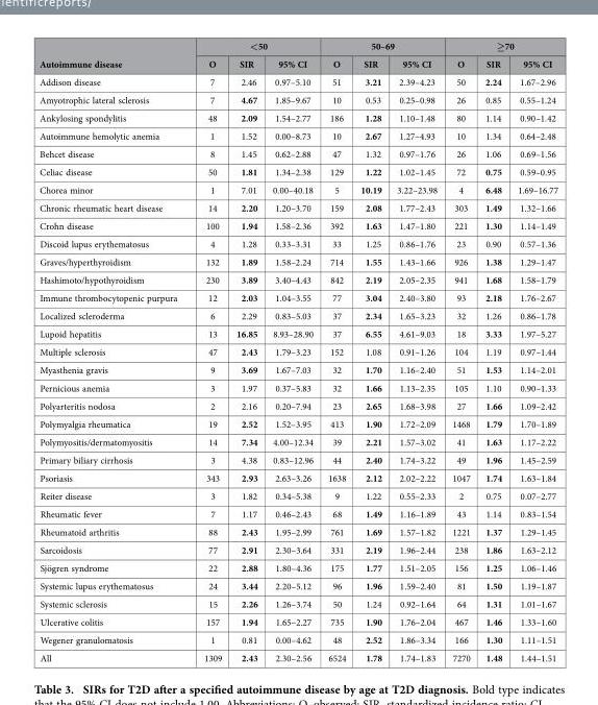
<table><thead><tr><td rowspan="2">Autoimmune disease</td><td colspan="3">&lt;50</td><td colspan="3">50–69</td><td colspan="3">≥70</td></tr><tr><td>O</td><td>SIR</td><td>95% CI</td><td>O</td><td>SIR</td><td>95% CI</td><td>O</td><td>SIR</td><td>95% CI</td></tr></thead><tbody><tr><td>Addison disease</td><td>7</td><td>2.46</td><td>0.97–5.10</td><td>51</td><td>3.21</td><td>2.39–4.23</td><td>50</td><td>2.24</td><td>1.67–2.96</td></tr><tr><td>Amyotrophic lateral sclerosis</td><td>7</td><td>4.67</td><td>1.85–9.67</td><td>10</td><td>0.53</td><td>0.25–0.98</td><td>26</td><td>0.85</td><td>0.55–1.24</td></tr><tr><td>Ankylosing spondylitis</td><td>48</td><td>2.09</td><td>1.54–2.77</td><td>186</td><td>1.28</td><td>1.10–1.48</td><td>80</td><td>1.14</td><td>0.90–1.42</td></tr><tr><td>Autoimmune hemolytic anemia</td><td>1</td><td>1.52</td><td>0.00–8.73</td><td>10</td><td>2.67</td><td>1.27–4.93</td><td>10</td><td>1.34</td><td>0.64–2.48</td></tr><tr><td>Behcet disease</td><td>8</td><td>1.45</td><td>0.62–2.88</td><td>47</td><td>1.32</td><td>0.97–1.76</td><td>26</td><td>1.06</td><td>0.69–1.56</td></tr><tr><td>Celiac disease</td><td>50</td><td>1.81</td><td>1.34–2.38</td><td>129</td><td>1.22</td><td>1.02–1.45</td><td>72</td><td>0.75</td><td>0.59–0.95</td></tr><tr><td>Chorea minor</td><td>1</td><td>7.01</td><td>0.00–40.18</td><td>5</td><td>10.19</td><td>3.22–23.98</td><td>4</td><td>6.48</td><td>1.69–16.77</td></tr><tr><td>Chronic rheumatic heart disease</td><td>14</td><td>2.20</td><td>1.20–3.70</td><td>159</td><td>2.08</td><td>1.77–2.43</td><td>303</td><td>1.49</td><td>1.32–1.66</td></tr><tr><td>Crohn disease</td><td>100</td><td>1.94</td><td>1.58–2.36</td><td>392</td><td>1.63</td><td>1.47–1.80</td><td>221</td><td>1.30</td><td>1.14–1.49</td></tr><tr><td>Discoid lupus erythematosus</td><td>4</td><td>1.28</td><td>0.33–3.31</td><td>33</td><td>1.25</td><td>0.86–1.76</td><td>23</td><td>0.90</td><td>0.57–1.36</td></tr><tr><td>Graves/hyperthyroidism</td><td>132</td><td>1.89</td><td>1.58–2.24</td><td>714</td><td>1.55</td><td>1.43–1.66</td><td>926</td><td>1.38</td><td>1.29–1.47</td></tr><tr><td>Hashimoto/hypothyroidism</td><td>230</td><td>3.89</td><td>3.40–4.43</td><td>842</td><td>2.19</td><td>2.05–2.35</td><td>941</td><td>1.68</td><td>1.58–1.79</td></tr><tr><td>Immune thrombocytopenic purpura</td><td>12</td><td>2.03</td><td>1.04–3.55</td><td>77</td><td>3.04</td><td>2.40–3.80</td><td>93</td><td>2.18</td><td>1.76–2.67</td></tr><tr><td>Localized scleroderma</td><td>6</td><td>2.29</td><td>0.83–5.03</td><td>37</td><td>2.34</td><td>1.65–3.23</td><td>32</td><td>1.26</td><td>0.86–1.78</td></tr><tr><td>Lupoid hepatitis</td><td>13</td><td>16.85</td><td>8.93–28.90</td><td>37</td><td>6.55</td><td>4.61–9.03</td><td>18</td><td>3.33</td><td>1.97–5.27</td></tr><tr><td>Multiple sclerosis</td><td>47</td><td>2.43</td><td>1.79–3.23</td><td>152</td><td>1.08</td><td>0.91–1.26</td><td>104</td><td>1.19</td><td>0.97–1.44</td></tr><tr><td>Myasthenia gravis</td><td>9</td><td>3.69</td><td>1.67–7.03</td><td>32</td><td>1.70</td><td>1.16–2.40</td><td>51</td><td>1.53</td><td>1.14–2.01</td></tr><tr><td>Pernicious anemia</td><td>3</td><td>1.97</td><td>0.37–5.83</td><td>32</td><td>1.66</td><td>1.13–2.35</td><td>105</td><td>1.10</td><td>0.90–1.33</td></tr><tr><td>Polyarteritis nodosa</td><td>2</td><td>2.16</td><td>0.20–7.94</td><td>23</td><td>2.65</td><td>1.68–3.98</td><td>27</td><td>1.66</td><td>1.09–2.42</td></tr><tr><td>Polymyalgia rheumatica</td><td>19</td><td>2.52</td><td>1.52–3.95</td><td>413</td><td>1.90</td><td>1.72–2.09</td><td>1468</td><td>1.79</td><td>1.70–1.89</td></tr><tr><td>Polymyositis/dermatomyositis</td><td>14</td><td>7.34</td><td>4.00–12.34</td><td>39</td><td>2.21</td><td>1.57–3.02</td><td>41</td><td>1.63</td><td>1.17–2.22</td></tr><tr><td>Primary biliary cirrhosis</td><td>3</td><td>4.38</td><td>0.83–12.96</td><td>44</td><td>2.40</td><td>1.74–3.22</td><td>49</td><td>1.96</td><td>1.45–2.59</td></tr><tr><td>Psoriasis</td><td>343</td><td>2.93</td><td>2.63–3.26</td><td>1638</td><td>2.12</td><td>2.02–2.22</td><td>1047</td><td>1.74</td><td>1.63–1.84</td></tr><tr><td>Reiter disease</td><td>3</td><td>1.82</td><td>0.34–5.38</td><td>9</td><td>1.22</td><td>0.55–2.33</td><td>2</td><td>0.75</td><td>0.07–2.77</td></tr><tr><td>Rheumatic fever</td><td>7</td><td>1.17</td><td>0.46–2.43</td><td>68</td><td>1.49</td><td>1.16–1.89</td><td>43</td><td>1.14</td><td>0.83–1.54</td></tr><tr><td>Rheumatoid arthritis</td><td>88</td><td>2.43</td><td>1.95–2.99</td><td>761</td><td>1.69</td><td>1.57–1.82</td><td>1221</td><td>1.37</td><td>1.29–1.45</td></tr><tr><td>Sarcoidosis</td><td>77</td><td>2.91</td><td>2.30–3.64</td><td>331</td><td>2.19</td><td>1.96–2.44</td><td>238</td><td>1.86</td><td>1.63–2.12</td></tr><tr><td>Sjögren syndrome</td><td>22</td><td>2.88</td><td>1.80–4.36</td><td>175</td><td>1.77</td><td>1.51–2.05</td><td>156</td><td>1.25</td><td>1.06–1.46</td></tr><tr><td>Systemic lupus erythematosus</td><td>24</td><td>3.44</td><td>2.20–5.12</td><td>96</td><td>1.96</td><td>1.59–2.40</td><td>81</td><td>1.50</td><td>1.19–1.87</td></tr><tr><td>Systemic sclerosis</td><td>15</td><td>2.26</td><td>1.26–3.74</td><td>50</td><td>1.24</td><td>0.92–1.64</td><td>64</td><td>1.31</td><td>1.01–1.67</td></tr><tr><td>Ulcerative colitis</td><td>157</td><td>1.94</td><td>1.65–2.27</td><td>735</td><td>1.90</td><td>1.76–2.04</td><td>467</td><td>1.46</td><td>1.33–1.60</td></tr><tr><td>Wegener granulomatosis</td><td>1</td><td>0.81</td><td>0.00–4.62</td><td>48</td><td>2.52</td><td>1.86–3.34</td><td>166</td><td>1.30</td><td>1.11–1.51</td></tr><tr><td>All</td><td>1309</td><td>2.43</td><td>2.30–2.56</td><td>6524</td><td>1.78</td><td>1.74–1.83</td><td>7270</td><td>1.48</td><td>1.44–1.51</td></tr></tbody></table>